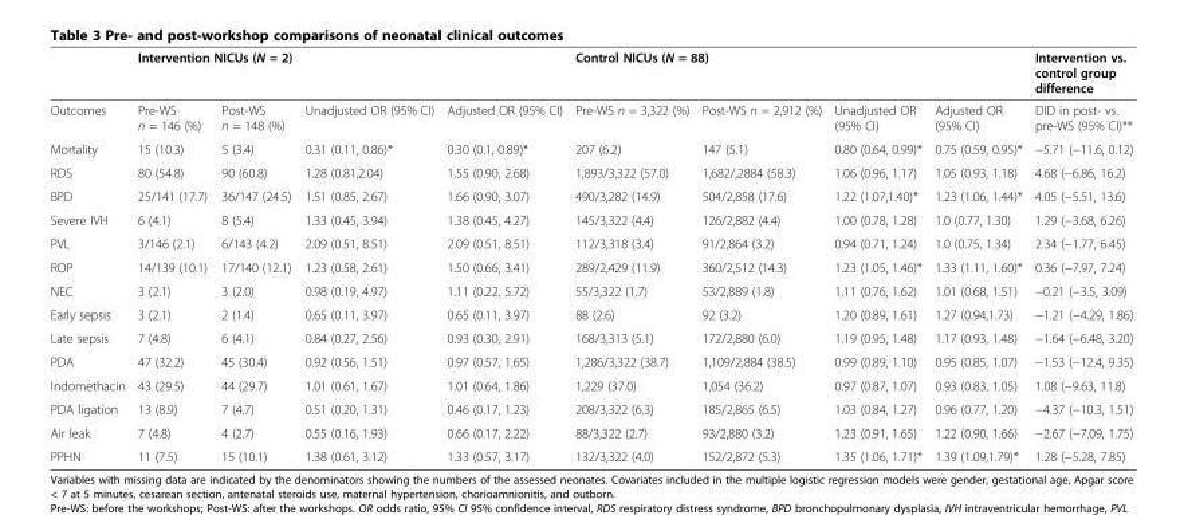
<table><thead><tr><td rowspan="2">Outcomes</td><td colspan="4">Intervention NICUs (N = 2)</td><td colspan="4">Control NICUs (N = 88)</td><td rowspan="2">Intervention vs. control group difference DID in post- vs. pre-WS (95% CI)**</td></tr><tr><td>Pre-WS n = 146 (%)</td><td>Post-WS n = 148 (%)</td><td>Unadjusted OR (95% CI)</td><td>Adjusted OR (95% CI)</td><td>Pre-WS n = 3,322 (%)</td><td>Post-WS n = 2,912 (%)</td><td>Unadjusted OR (95% CI)</td><td>Adjusted OR (95% CI)</td></tr></thead><tbody><tr><td>Mortality</td><td>15 (10.3)</td><td>5 (3.4)</td><td>0.31 (0.11, 0.86)*</td><td>0.30 (0.1, 0.89)*</td><td>207 (6.2)</td><td>147 (5.1)</td><td>0.80 (0.64, 0.99)*</td><td>0.75 (0.59, 0.95)*</td><td>−5.71 (−11.6, 0.12)</td></tr><tr><td>RDS</td><td>80 (54.8)</td><td>90 (60.8)</td><td>1.28 (0.81,2.04)</td><td>1.55 (0.90, 2.68)</td><td>1,893/3,322 (57.0)</td><td>1,682/,2884 (58.3)</td><td>1.06 (0.96, 1.17)</td><td>1.05 (0.93, 1.18)</td><td>4.68 (−6.86, 16.2)</td></tr><tr><td>BPD</td><td>25/141 (17.7)</td><td>36/147 (24.5)</td><td>1.51 (0.85, 2.67)</td><td>1.66 (0.90, 3.07)</td><td>490/3,282 (14.9)</td><td>504/2,858 (17.6)</td><td>1.22 (1.07,1.40)*</td><td>1.23 (1.06, 1.44)*</td><td>4.05 (−5.51, 13.6)</td></tr><tr><td>Severe IVH</td><td>6 (4.1)</td><td>8 (5.4)</td><td>1.33 (0.45, 3.94)</td><td>1.38 (0.45, 4.27)</td><td>145/3,322 (4.4)</td><td>126/2,882 (4.4)</td><td>1.00 (0.78, 1.28)</td><td>1.0 (0.77, 1.30)</td><td>1.29 (−3.68, 6.26)</td></tr><tr><td>PVL</td><td>3/146 (2.1)</td><td>6/143 (4.2)</td><td>2.09 (0.51, 8.51)</td><td>2.09 (0.51, 8.51)</td><td>112/3,318 (3.4)</td><td>91/2,864 (3.2)</td><td>0.94 (0.71, 1.24)</td><td>1.0 (0.75, 1.34)</td><td>2.34 (−1.77, 6.45)</td></tr><tr><td>ROP</td><td>14/139 (10.1)</td><td>17/140 (12.1)</td><td>1.23 (0.58, 2.61)</td><td>1.50 (0.66, 3.41)</td><td>289/2,429 (11.9)</td><td>360/2,512 (14.3)</td><td>1.23 (1.05, 1.46)*</td><td>1.33 (1.11, 1.60)*</td><td>0.36 (−7.97, 7.24)</td></tr><tr><td>NEC</td><td>3 (2.1)</td><td>3 (2.0)</td><td>0.98 (0.19, 4.97)</td><td>1.11 (0.22, 5.72)</td><td>55/3,322 (1.7)</td><td>53/2,889 (1.8)</td><td>1.11 (0.76, 1.62)</td><td>1.01 (0.68, 1.51)</td><td>−0.21 (−3.5, 3.09)</td></tr><tr><td>Early sepsis</td><td>3 (2.1)</td><td>2 (1.4)</td><td>0.65 (0.11, 3.97)</td><td>0.65 (0.11, 3.97)</td><td>88 (2.6)</td><td>92 (3.2)</td><td>1.20 (0.89, 1.61)</td><td>1.27 (0.94,1.73)</td><td>−1.21 (−4.29, 1.86)</td></tr><tr><td>Late sepsis</td><td>7 (4.8)</td><td>6 (4.1)</td><td>0.84 (0.27, 2.56)</td><td>0.93 (0.30, 2.91)</td><td>168/3,313 (5.1)</td><td>172/2,880 (6.0)</td><td>1.19 (0.95, 1.48)</td><td>1.17 (0.93, 1.48)</td><td>−1.64 (−6.48, 3.20)</td></tr><tr><td>PDA</td><td>47 (32.2)</td><td>45 (30.4)</td><td>0.92 (0.56, 1.51)</td><td>0.97 (0.57, 1.65)</td><td>1,286/3,322 (38.7)</td><td>1,109/2,884 (38.5)</td><td>0.99 (0.89, 1.10)</td><td>0.95 (0.85, 1.07)</td><td>−1.53 (−12.4, 9.35)</td></tr><tr><td>Indomethacin</td><td>43 (29.5)</td><td>44 (29.7)</td><td>1.01 (0.61, 1.67)</td><td>1.01 (0.64, 1.86)</td><td>1,229 (37.0)</td><td>1,054 (36.2)</td><td>0.97 (0.87, 1.07)</td><td>0.93 (0.83, 1.05)</td><td>1.08 (−9.63, 11.8)</td></tr><tr><td>PDA ligation</td><td>13 (8.9)</td><td>7 (4.7)</td><td>0.51 (0.20, 1.31)</td><td>0.46 (0.17, 1.23)</td><td>208/3,322 (6.3)</td><td>185/2,865 (6.5)</td><td>1.03 (0.84, 1.27)</td><td>0.96 (0.77, 1.20)</td><td>−4.37 (−10.3, 1.51)</td></tr><tr><td>Air leak</td><td>7 (4.8)</td><td>4 (2.7)</td><td>0.55 (0.16, 1.93)</td><td>0.66 (0.17, 2.22)</td><td>88/3,322 (2.7)</td><td>93/2,880 (3.2)</td><td>1.23 (0.91, 1.65)</td><td>1.22 (0.90, 1.66)</td><td>−2.67 (−7.09, 1.75)</td></tr><tr><td>PPHN</td><td>11 (7.5)</td><td>15 (10.1)</td><td>1.38 (0.61, 3.12)</td><td>1.33 (0.57, 3.17)</td><td>132/3,322 (4.0)</td><td>152/2,872 (5.3)</td><td>1.35 (1.06, 1.71)*</td><td>1.39 (1.09,1.79)*</td><td>1.28 (−5.28, 7.85)</td></tr></tbody></table>